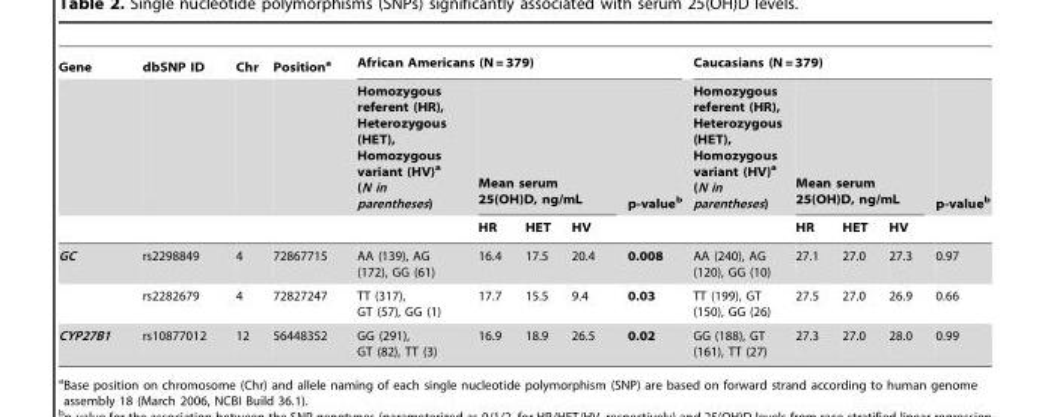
<table><thead><tr><td rowspan="3">Gene</td><td rowspan="3">dbSNP ID</td><td rowspan="3">Chr</td><td rowspan="3">Position<sup>a</sup></td><td colspan="5">African Americans (N = 379)</td><td colspan="5">Caucasians (N = 379)</td></tr><tr><td rowspan="2">Homozygous referent (HR), Heterozygous (HET), Homozygous variant (HV)<sup>a</sup> (N in parentheses)</td><td colspan="3">Mean serum 25(OH)D, ng/mL</td><td rowspan="2">p-value<sup>b</sup></td><td rowspan="2">Homozygous referent (HR), Heterozygous (HET), Homozygous variant (HV)<sup>a</sup> (N in parentheses)</td><td colspan="3">Mean serum 25(OH)D, ng/mL</td><td rowspan="2">p-value<sup>b</sup></td></tr><tr><td>HR</td><td>HET</td><td>HV</td><td>HR</td><td>HET</td><td>HV</td></tr></thead><tbody><tr><td rowspan="2">GC</td><td>rs2298849</td><td>4</td><td>72867715</td><td>AA (139), AG (172), GG (61)</td><td>16.4</td><td>17.5</td><td>20.4</td><td>0.008</td><td>AA (240), AG (120), GG (10)</td><td>27.1</td><td>27.0</td><td>27.3</td><td>0.97</td></tr><tr><td>rs2282679</td><td>4</td><td>72827247</td><td>TT (317), GT (57), GG (1)</td><td>17.7</td><td>15.5</td><td>9.4</td><td>0.03</td><td>TT (199), GT (150), GG (26)</td><td>27.5</td><td>27.0</td><td>26.9</td><td>0.66</td></tr><tr><td>CYP27B1</td><td>rs10877012</td><td>12</td><td>56448352</td><td>GG (291), GT (82), TT (3)</td><td>16.9</td><td>18.9</td><td>26.5</td><td>0.02</td><td>GG (188), GT (161), TT (27)</td><td>27.3</td><td>27.0</td><td>28.0</td><td>0.99</td></tr></tbody></table>